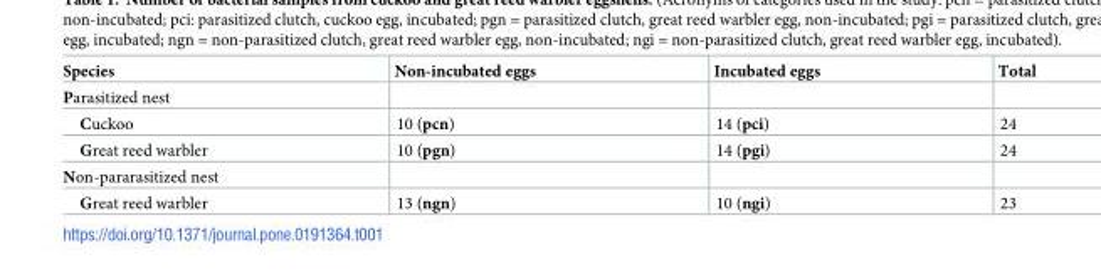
<table><thead><tr><td>Species</td><td>Non-incubated eggs</td><td>Incubated eggs</td><td>Total</td></tr></thead><tbody><tr><td colspan="4">Parasitized nest</td></tr><tr><td>Cuckoo</td><td>10 (pcn)</td><td>14 (pci)</td><td>24</td></tr><tr><td>Great reed warbler</td><td>10 (pgn)</td><td>14 (pgi)</td><td>24</td></tr><tr><td colspan="4">Non-pararasitized nest</td></tr><tr><td>Great reed warbler</td><td>13 (ngn)</td><td>10 (ngi)</td><td>23</td></tr></tbody></table>